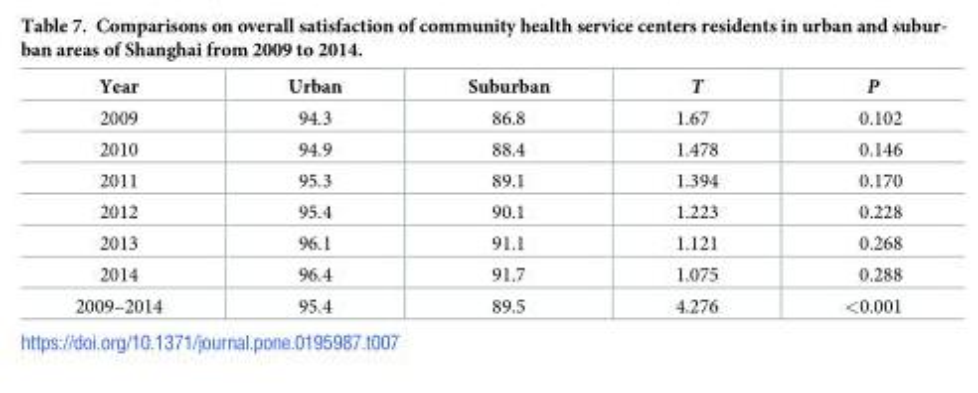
<table><thead><tr><td>Year</td><td>Urban</td><td>Suburban</td><td>T</td><td>P</td></tr></thead><tbody><tr><td>2009</td><td>94.3</td><td>86.8</td><td>1.67</td><td>0.102</td></tr><tr><td>2010</td><td>94.9</td><td>88.4</td><td>1.478</td><td>0.146</td></tr><tr><td>2011</td><td>95.3</td><td>89.1</td><td>1.394</td><td>0.170</td></tr><tr><td>2012</td><td>95.4</td><td>90.1</td><td>1.223</td><td>0.228</td></tr><tr><td>2013</td><td>96.1</td><td>91.1</td><td>1.121</td><td>0.268</td></tr><tr><td>2014</td><td>96.4</td><td>91.7</td><td>1.075</td><td>0.288</td></tr><tr><td>2009–2014</td><td>95.4</td><td>89.5</td><td>4.276</td><td>&lt;0.001</td></tr></tbody></table>